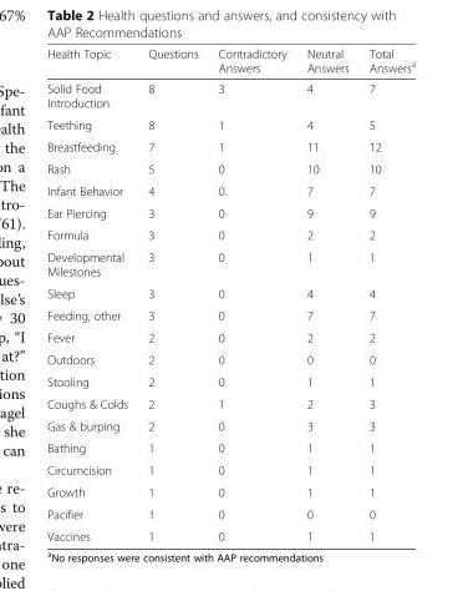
<table><thead><tr><td>Health Topic</td><td>Questions</td><td>Contradictory Answers</td><td>Neutral Answers</td><td>Total Answers<sup>a</sup></td></tr></thead><tbody><tr><td>Solid Food Introduction</td><td>8</td><td>3</td><td>4</td><td>7</td></tr><tr><td>Teething</td><td>8</td><td>1</td><td>4</td><td>5</td></tr><tr><td>Breastfeeding</td><td>7</td><td>1</td><td>11</td><td>12</td></tr><tr><td>Rash</td><td>5</td><td>0</td><td>10</td><td>10</td></tr><tr><td>Infant Behavior</td><td>4</td><td>0</td><td>7</td><td>7</td></tr><tr><td>Ear Piercing</td><td>3</td><td>0</td><td>9</td><td>9</td></tr><tr><td>Formula</td><td>3</td><td>0</td><td>2</td><td>2</td></tr><tr><td>Developmental Milestones</td><td>3</td><td>0</td><td>1</td><td>1</td></tr><tr><td>Sleep</td><td>3</td><td>0</td><td>4</td><td>4</td></tr><tr><td>Feeding, other</td><td>3</td><td>0</td><td>7</td><td>7</td></tr><tr><td>Fever</td><td>2</td><td>0</td><td>2</td><td>2</td></tr><tr><td>Outdoors</td><td>2</td><td>0</td><td>0</td><td>0</td></tr><tr><td>Stooling</td><td>2</td><td>0</td><td>1</td><td>1</td></tr><tr><td>Coughs &amp; Colds</td><td>2</td><td>1</td><td>2</td><td>3</td></tr><tr><td>Gas &amp; burping</td><td>2</td><td>0</td><td>3</td><td>3</td></tr><tr><td>Bathing</td><td>1</td><td>0</td><td>1</td><td>1</td></tr><tr><td>Circumcision</td><td>1</td><td>0</td><td>1</td><td>1</td></tr><tr><td>Growth</td><td>1</td><td>0</td><td>1</td><td>1</td></tr><tr><td>Pacifier</td><td>1</td><td>0</td><td>0</td><td>0</td></tr><tr><td>Vaccines</td><td>1</td><td>0</td><td>1</td><td>1</td></tr></tbody></table>